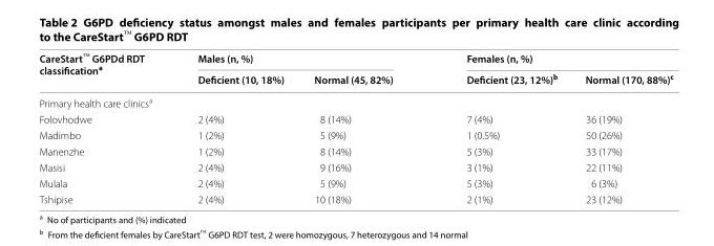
<table><thead><tr><td rowspan="2">CareStart™ G6PDd RDT classification<sup>a</sup></td><td colspan="2">Males (n, %)</td><td colspan="2">Females (n, %)</td></tr><tr><td>Deficient (10, 18%)</td><td>Normal (45, 82%)</td><td>Deficient (23, 12%)<sup>b</sup></td><td>Normal (170, 88%)<sup>c</sup></td></tr></thead><tbody><tr><td colspan="5">Primary health care clinics<sup>a</sup></td></tr><tr><td>Folovhodwe</td><td>2 (4%)</td><td>8 (14%)</td><td>7 (4%)</td><td>36 (19%)</td></tr><tr><td>Madimbo</td><td>1 (2%)</td><td>5 (9%)</td><td>1 (0.5%)</td><td>50 (26%)</td></tr><tr><td>Manenzhe</td><td>1 (2%)</td><td>8 (14%)</td><td>5 (3%)</td><td>33 (17%)</td></tr><tr><td>Masisi</td><td>2 (4%)</td><td>9 (16%)</td><td>3 (1%)</td><td>22 (11%)</td></tr><tr><td>Mulala</td><td>2 (4%)</td><td>5 (9%)</td><td>5 (3%)</td><td>6 (3%)</td></tr><tr><td>Tshipise</td><td>2 (4%)</td><td>10 (18%)</td><td>2 (1%)</td><td>23 (12%)</td></tr></tbody></table>